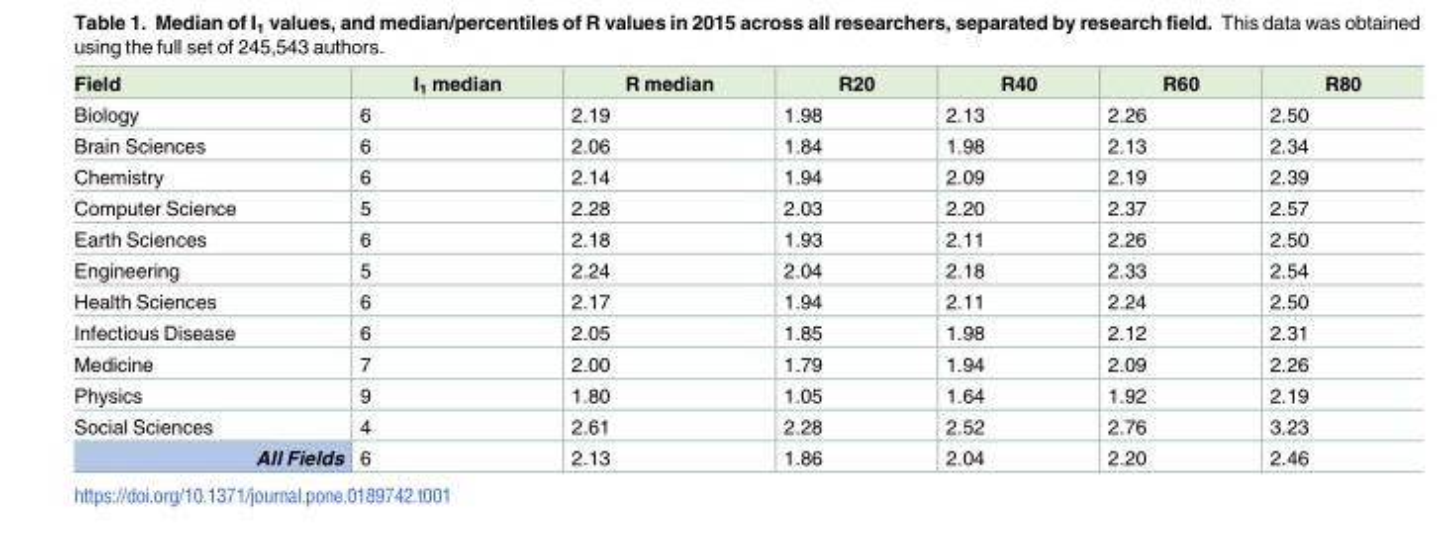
<table><thead><tr><td>Field</td><td>I<sub>1</sub> median</td><td>R median</td><td>R20</td><td>R40</td><td>R60</td><td>R80</td></tr></thead><tbody><tr><td>Biology</td><td>6</td><td>2.19</td><td>1.98</td><td>2.13</td><td>2.26</td><td>2.50</td></tr><tr><td>Brain Sciences</td><td>6</td><td>2.06</td><td>1.84</td><td>1.98</td><td>2.13</td><td>2.34</td></tr><tr><td>Chemistry</td><td>6</td><td>2.14</td><td>1.94</td><td>2.09</td><td>2.19</td><td>2.39</td></tr><tr><td>Computer Science</td><td>5</td><td>2.28</td><td>2.03</td><td>2.20</td><td>2.37</td><td>2.57</td></tr><tr><td>Earth Sciences</td><td>6</td><td>2.18</td><td>1.93</td><td>2.11</td><td>2.26</td><td>2.50</td></tr><tr><td>Engineering</td><td>5</td><td>2.24</td><td>2.04</td><td>2.18</td><td>2.33</td><td>2.54</td></tr><tr><td>Health Sciences</td><td>6</td><td>2.17</td><td>1.94</td><td>2.11</td><td>2.24</td><td>2.50</td></tr><tr><td>Infectious Disease</td><td>6</td><td>2.05</td><td>1.85</td><td>1.98</td><td>2.12</td><td>2.31</td></tr><tr><td>Medicine</td><td>7</td><td>2.00</td><td>1.79</td><td>1.94</td><td>2.09</td><td>2.26</td></tr><tr><td>Physics</td><td>9</td><td>1.80</td><td>1.05</td><td>1.64</td><td>1.92</td><td>2.19</td></tr><tr><td>Social Sciences</td><td>4</td><td>2.61</td><td>2.28</td><td>2.52</td><td>2.76</td><td>3.23</td></tr><tr><td>All Fields</td><td>6</td><td>2.13</td><td>1.86</td><td>2.04</td><td>2.20</td><td>2.46</td></tr></tbody></table>